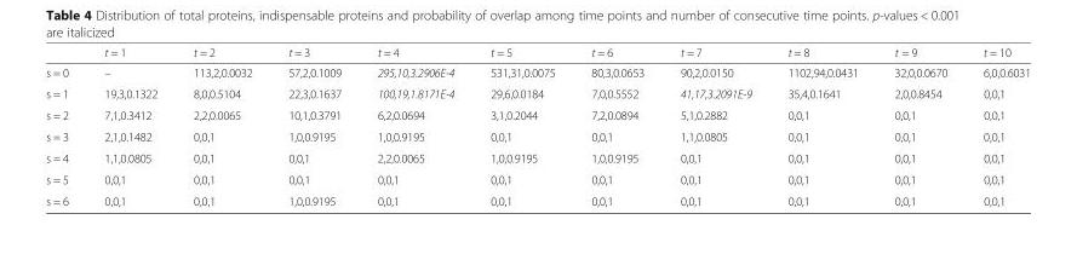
<table><thead><tr><td></td><td>t = 1</td><td>t = 2</td><td>t = 3</td><td>t = 4</td><td>t = 5</td><td>t = 6</td><td>t = 7</td><td>t = 8</td><td>t = 9</td><td>t = 10</td></tr></thead><tbody><tr><td>s = 0</td><td>–</td><td>113,2,0.0032</td><td>57,2,0.1009</td><td>295,10,3.2906E-4</td><td>531,31,0.0075</td><td>80,3,0.0653</td><td>90,2,0.0150</td><td>1102,94,0.0431</td><td>32,0,0.0670</td><td>6,0,0.6031</td></tr><tr><td>s = 1</td><td>19,3,0.1322</td><td>8,0,0.5104</td><td>22,3,0.1637</td><td>100,19,1.8171E-4</td><td>29,6,0.0184</td><td>7,0,0.5552</td><td>41,17,3.2091E-9</td><td>35,4,0.1641</td><td>2,0,0.8454</td><td>0,0,1</td></tr><tr><td>s = 2</td><td>7,1,0.3412</td><td>2,2,0.0065</td><td>10,1,0.3791</td><td>6,2,0.0694</td><td>3,1,0.2044</td><td>7,2,0.0894</td><td>5,1,0.2882</td><td>0,0,1</td><td>0,0,1</td><td>0,0,1</td></tr><tr><td>s = 3</td><td>2,1,0.1482</td><td>0,0,1</td><td>1,0,0.9195</td><td>1,0,0.9195</td><td>0,0,1</td><td>0,0,1</td><td>1,1,0.0805</td><td>0,0,1</td><td>0,0,1</td><td>0,0,1</td></tr><tr><td>s = 4</td><td>1,1,0.0805</td><td>0,0,1</td><td>0,0,1</td><td>2,2,0.0065</td><td>1,0,0.9195</td><td>1,0,0.9195</td><td>0,0,1</td><td>0,0,1</td><td>0,0,1</td><td>0,0,1</td></tr><tr><td>s = 5</td><td>0,0,1</td><td>0,0,1</td><td>0,0,1</td><td>0,0,1</td><td>0,0,1</td><td>0,0,1</td><td>0,0,1</td><td>0,0,1</td><td>0,0,1</td><td>0,0,1</td></tr><tr><td>s = 6</td><td>0,0,1</td><td>0,0,1</td><td>1,0,0.9195</td><td>0,0,1</td><td>0,0,1</td><td>0,0,1</td><td>0,0,1</td><td>0,0,1</td><td>0,0,1</td><td>0,0,1</td></tr></tbody></table>